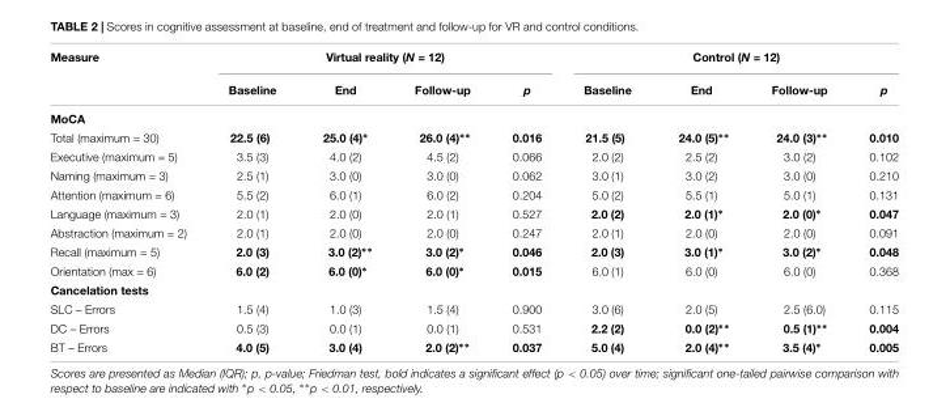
<table><thead><tr><td rowspan="2">Measure</td><td colspan="4">Virtual reality (N = 12)</td><td colspan="4">Control (N = 12)</td></tr><tr><td>Baseline</td><td>End</td><td>Follow-up</td><td>p</td><td>Baseline</td><td>End</td><td>Follow-up</td><td>p</td></tr></thead><tbody><tr><td colspan="9">MoCA</td></tr><tr><td>Total (maximum = 30)</td><td>22.5 (6)</td><td>25.0 (4)∗</td><td>26.0 (4)∗∗</td><td>0.016</td><td>21.5 (5)</td><td>24.0 (5)∗∗</td><td>24.0 (3)∗∗</td><td>0.010</td></tr><tr><td>Executive (maximum = 5)</td><td>3.5 (3)</td><td>4.0 (2)</td><td>4.5 (2)</td><td>0.066</td><td>2.0 (2)</td><td>2.5 (2)</td><td>3.0 (2)</td><td>0.102</td></tr><tr><td>Naming (maximum = 3)</td><td>2.5 (1)</td><td>3.0 (0)</td><td>3.0 (0)</td><td>0.062</td><td>3.0 (1)</td><td>3.0 (2)</td><td>3.0 (0)</td><td>0.210</td></tr><tr><td>Attention (maximum = 6)</td><td>5.5 (2)</td><td>6.0 (1)</td><td>6.0 (2)</td><td>0.204</td><td>5.0 (2)</td><td>5.5 (1)</td><td>5.0 (1)</td><td>0.131</td></tr><tr><td>Language (maximum = 3)</td><td>2.0 (1)</td><td>2.0 (0)</td><td>2.0 (1)</td><td>0.527</td><td>2.0 (2)</td><td>2.0 (1)∗</td><td>2.0 (0)∗</td><td>0.047</td></tr><tr><td>Abstraction (maximum = 2)</td><td>2.0 (1)</td><td>2.0 (0)</td><td>2.0 (0)</td><td>0.247</td><td>2.0 (1)</td><td>2.0 (0)</td><td>2.0 (0)</td><td>0.091</td></tr><tr><td>Recall (maximum = 5)</td><td>2.0 (3)</td><td>3.0 (2)∗∗</td><td>3.0 (2)∗</td><td>0.046</td><td>2.0 (3)</td><td>3.0 (1)∗</td><td>3.0 (2)∗</td><td>0.048</td></tr><tr><td>Orientation (max = 6)</td><td>6.0 (2)</td><td>6.0 (0)∗</td><td>6.0 (0)∗</td><td>0.015</td><td>6.0 (1)</td><td>6.0 (0)</td><td>6.0 (0)</td><td>0.368</td></tr><tr><td colspan="9">Cancelation tests</td></tr><tr><td>SLC – Errors</td><td>1.5 (4)</td><td>1.0 (3)</td><td>1.5 (4)</td><td>0.900</td><td>3.0 (6)</td><td>2.0 (5)</td><td>2.5 (6.0)</td><td>0.115</td></tr><tr><td>DC – Errors</td><td>0.5 (3)</td><td>0.0 (1)</td><td>0.0 (1)</td><td>0.531</td><td>2.2 (2)</td><td>0.0 (2)∗∗</td><td>0.5 (1)∗∗</td><td>0.004</td></tr><tr><td>BT – Errors</td><td>4.0 (5)</td><td>3.0 (4)</td><td>2.0 (2)∗∗</td><td>0.037</td><td>5.0 (4)</td><td>2.0 (4)∗∗</td><td>3.5 (4)∗</td><td>0.005</td></tr></tbody></table>